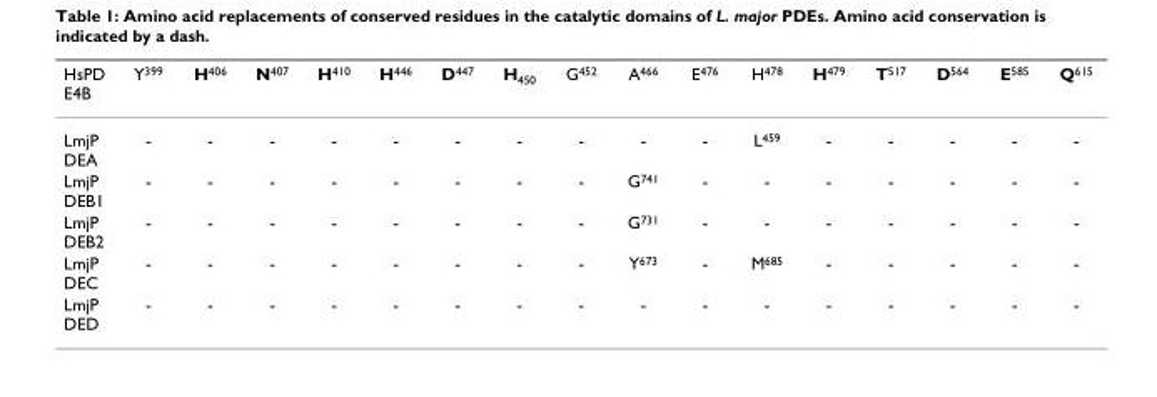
<table><thead><tr><td>HsPD E4B</td><td>Y399</td><td>H406</td><td>N407</td><td>H410</td><td>H446</td><td>D447</td><td>H450</td><td>G452</td><td>A466</td><td>E476</td><td>H478</td><td>H479</td><td>T517</td><td>D564</td><td>E585</td><td>Q615</td></tr></thead><tbody><tr><td>LmjP DEA</td><td>-</td><td>-</td><td>-</td><td>-</td><td>-</td><td>-</td><td>-</td><td>-</td><td>-</td><td>-</td><td>L459</td><td>-</td><td>-</td><td>-</td><td>-</td><td>-</td></tr><tr><td>LmjP DEB1</td><td>-</td><td>-</td><td>-</td><td>-</td><td>-</td><td>-</td><td>-</td><td>-</td><td>G741</td><td>-</td><td>-</td><td>-</td><td>-</td><td>-</td><td>-</td><td>-</td></tr><tr><td>LmjP DEB2</td><td>-</td><td>-</td><td>-</td><td>-</td><td>-</td><td>-</td><td>-</td><td>-</td><td>G731</td><td>-</td><td>-</td><td>-</td><td>-</td><td>-</td><td>-</td><td>-</td></tr><tr><td>LmjP DEC</td><td>-</td><td>-</td><td>-</td><td>-</td><td>-</td><td>-</td><td>-</td><td>-</td><td>Y673</td><td>-</td><td>M685</td><td>-</td><td>-</td><td>-</td><td>-</td><td>-</td></tr><tr><td>LmjP DED</td><td>-</td><td>-</td><td>-</td><td>-</td><td>-</td><td>-</td><td>-</td><td>-</td><td>-</td><td>-</td><td>-</td><td>-</td><td>-</td><td>-</td><td>-</td><td>-</td></tr></tbody></table>